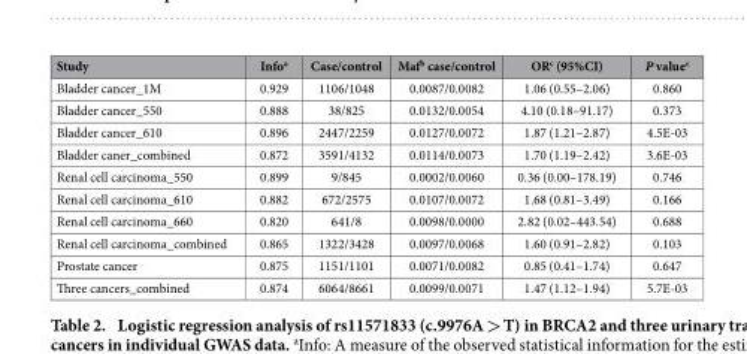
<table><thead><tr><td>Study</td><td>Info<sup>a</sup></td><td>Case/control</td><td>Maf<sup>b</sup> case/control</td><td>OR<sup>c</sup> (95%CI)</td><td>P value<sup>c</sup></td></tr></thead><tbody><tr><td>Bladder cancer_1M</td><td>0.929</td><td>1106/1048</td><td>0.0087/0.0082</td><td>1.06 (0.55–2.06)</td><td>0.860</td></tr><tr><td>Bladder cancer_550</td><td>0.888</td><td>38/825</td><td>0.0132/0.0054</td><td>4.10 (0.18–91.17)</td><td>0.373</td></tr><tr><td>Bladder cancer_610</td><td>0.896</td><td>2447/2259</td><td>0.0127/0.0072</td><td>1.87 (1.21–2.87)</td><td>4.5E-03</td></tr><tr><td>Bladder caner_combined</td><td>0.872</td><td>3591/4132</td><td>0.0114/0.0073</td><td>1.70 (1.19–2.42)</td><td>3.6E-03</td></tr><tr><td>Renal cell carcinoma_550</td><td>0.899</td><td>9/845</td><td>0.0002/0.0060</td><td>0.36 (0.00–178.19)</td><td>0.746</td></tr><tr><td>Renal cell carcinoma_610</td><td>0.882</td><td>672/2575</td><td>0.0107/0.0072</td><td>1.68 (0.81–3.49)</td><td>0.166</td></tr><tr><td>Renal cell carcinoma_660</td><td>0.820</td><td>641/8</td><td>0.0098/0.0000</td><td>2.82 (0.02–443.54)</td><td>0.688</td></tr><tr><td>Renal cell carcinoma_combined</td><td>0.865</td><td>1322/3428</td><td>0.0097/0.0068</td><td>1.60 (0.91–2.82)</td><td>0.103</td></tr><tr><td>Prostate cancer</td><td>0.875</td><td>1151/1101</td><td>0.0071/0.0082</td><td>0.85 (0.41–1.74)</td><td>0.647</td></tr><tr><td>Three cancers_combined</td><td>0.874</td><td>6064/8661</td><td>0.0099/0.0071</td><td>1.47 (1.12–1.94)</td><td>5.7E-03</td></tr></tbody></table>